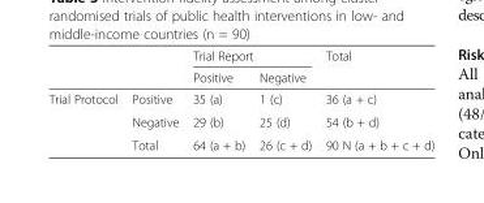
<table><thead><tr><td rowspan="2"></td><td rowspan="2"></td><td colspan="2">Trial Report</td><td rowspan="2">Total</td></tr><tr><td>Positive</td><td>Negative</td></tr></thead><tbody><tr><td rowspan="3">Trial Protocol</td><td>Positive</td><td>35 (a)</td><td>1 (c)</td><td>36 (a + c)</td></tr><tr><td>Negative</td><td>29 (b)</td><td>25 (d)</td><td>54 (b + d)</td></tr><tr><td>Total</td><td>64 (a + b)</td><td>26 (c + d)</td><td>90 N (a + b + c + d)</td></tr></tbody></table>